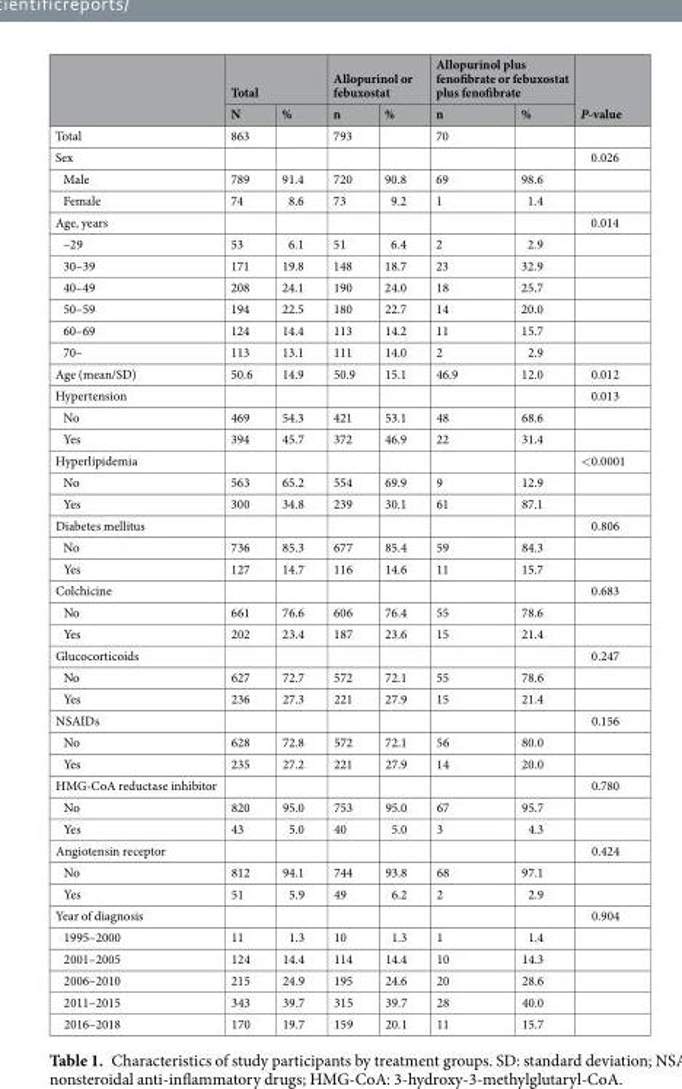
<table><thead><tr><td rowspan="2"></td><td colspan="2">Total</td><td colspan="2">Allopurinol or febuxostat</td><td colspan="2">Allopurinol plus fenofibrate or febuxostat plus fenofibrate</td><td rowspan="2">P-value</td></tr><tr><td>N</td><td>%</td><td>n</td><td>%</td><td>n</td><td>%</td></tr></thead><tbody><tr><td>Total</td><td>863</td><td></td><td>793</td><td></td><td>70</td><td></td><td></td></tr><tr><td>Sex</td><td></td><td></td><td></td><td></td><td></td><td></td><td>0.026</td></tr><tr><td>Male</td><td>789</td><td>91.4</td><td>720</td><td>90.8</td><td>69</td><td>98.6</td><td></td></tr><tr><td>Female</td><td>74</td><td>8.6</td><td>73</td><td>9.2</td><td>1</td><td>1.4</td><td></td></tr><tr><td>Age, years</td><td></td><td></td><td></td><td></td><td></td><td></td><td>0.014</td></tr><tr><td>–29</td><td>53</td><td>6.1</td><td>51</td><td>6.4</td><td>2</td><td>2.9</td><td></td></tr><tr><td>30–39</td><td>171</td><td>19.8</td><td>148</td><td>18.7</td><td>23</td><td>32.9</td><td></td></tr><tr><td>40–49</td><td>208</td><td>24.1</td><td>190</td><td>24.0</td><td>18</td><td>25.7</td><td></td></tr><tr><td>50–59</td><td>194</td><td>22.5</td><td>180</td><td>22.7</td><td>14</td><td>20.0</td><td></td></tr><tr><td>60–69</td><td>124</td><td>14.4</td><td>113</td><td>14.2</td><td>11</td><td>15.7</td><td></td></tr><tr><td>70–</td><td>113</td><td>13.1</td><td>111</td><td>14.0</td><td>2</td><td>2.9</td><td></td></tr><tr><td>Age (mean/SD)</td><td>50.6</td><td>14.9</td><td>50.9</td><td>15.1</td><td>46.9</td><td>12.0</td><td>0.012</td></tr><tr><td>Hypertension</td><td></td><td></td><td></td><td></td><td></td><td></td><td>0.013</td></tr><tr><td>No</td><td>469</td><td>54.3</td><td>421</td><td>53.1</td><td>48</td><td>68.6</td><td></td></tr><tr><td>Yes</td><td>394</td><td>45.7</td><td>372</td><td>46.9</td><td>22</td><td>31.4</td><td></td></tr><tr><td>Hyperlipidemia</td><td></td><td></td><td></td><td></td><td></td><td></td><td>&lt;0.0001</td></tr><tr><td>No</td><td>563</td><td>65.2</td><td>554</td><td>69.9</td><td>9</td><td>12.9</td><td></td></tr><tr><td>Yes</td><td>300</td><td>34.8</td><td>239</td><td>30.1</td><td>61</td><td>87.1</td><td></td></tr><tr><td>Diabetes mellitus</td><td></td><td></td><td></td><td></td><td></td><td></td><td>0.806</td></tr><tr><td>No</td><td>736</td><td>85.3</td><td>677</td><td>85.4</td><td>59</td><td>84.3</td><td></td></tr><tr><td>Yes</td><td>127</td><td>14.7</td><td>116</td><td>14.6</td><td>11</td><td>15.7</td><td></td></tr><tr><td>Colchicine</td><td></td><td></td><td></td><td></td><td></td><td></td><td>0.683</td></tr><tr><td>No</td><td>661</td><td>76.6</td><td>606</td><td>76.4</td><td>55</td><td>78.6</td><td></td></tr><tr><td>Yes</td><td>202</td><td>23.4</td><td>187</td><td>23.6</td><td>15</td><td>21.4</td><td></td></tr><tr><td>Glucocorticoids</td><td></td><td></td><td></td><td></td><td></td><td></td><td>0.247</td></tr><tr><td>No</td><td>627</td><td>72.7</td><td>572</td><td>72.1</td><td>55</td><td>78.6</td><td></td></tr><tr><td>Yes</td><td>236</td><td>27.3</td><td>221</td><td>27.9</td><td>15</td><td>21.4</td><td></td></tr><tr><td>NSAIDs</td><td></td><td></td><td></td><td></td><td></td><td></td><td>0.156</td></tr><tr><td>No</td><td>628</td><td>72.8</td><td>572</td><td>72.1</td><td>56</td><td>80.0</td><td></td></tr><tr><td>Yes</td><td>235</td><td>27.2</td><td>221</td><td>27.9</td><td>14</td><td>20.0</td><td></td></tr><tr><td>HMG-CoA reductase inhibitor</td><td></td><td></td><td></td><td></td><td></td><td></td><td>0.780</td></tr><tr><td>No</td><td>820</td><td>95.0</td><td>753</td><td>95.0</td><td>67</td><td>95.7</td><td></td></tr><tr><td>Yes</td><td>43</td><td>5.0</td><td>40</td><td>5.0</td><td>3</td><td>4.3</td><td></td></tr><tr><td>Angiotensin receptor</td><td></td><td></td><td></td><td></td><td></td><td></td><td>0.424</td></tr><tr><td>No</td><td>812</td><td>94.1</td><td>744</td><td>93.8</td><td>68</td><td>97.1</td><td></td></tr><tr><td>Yes</td><td>51</td><td>5.9</td><td>49</td><td>6.2</td><td>2</td><td>2.9</td><td></td></tr><tr><td>Year of diagnosis</td><td></td><td></td><td></td><td></td><td></td><td></td><td>0.904</td></tr><tr><td>1995–2000</td><td>11</td><td>1.3</td><td>10</td><td>1.3</td><td>1</td><td>1.4</td><td></td></tr><tr><td>2001–2005</td><td>124</td><td>14.4</td><td>114</td><td>14.4</td><td>10</td><td>14.3</td><td></td></tr><tr><td>2006–2010</td><td>215</td><td>24.9</td><td>195</td><td>24.6</td><td>20</td><td>28.6</td><td></td></tr><tr><td>2011–2015</td><td>343</td><td>39.7</td><td>315</td><td>39.7</td><td>28</td><td>40.0</td><td></td></tr><tr><td>2016–2018</td><td>170</td><td>19.7</td><td>159</td><td>20.1</td><td>11</td><td>15.7</td><td></td></tr></tbody></table>